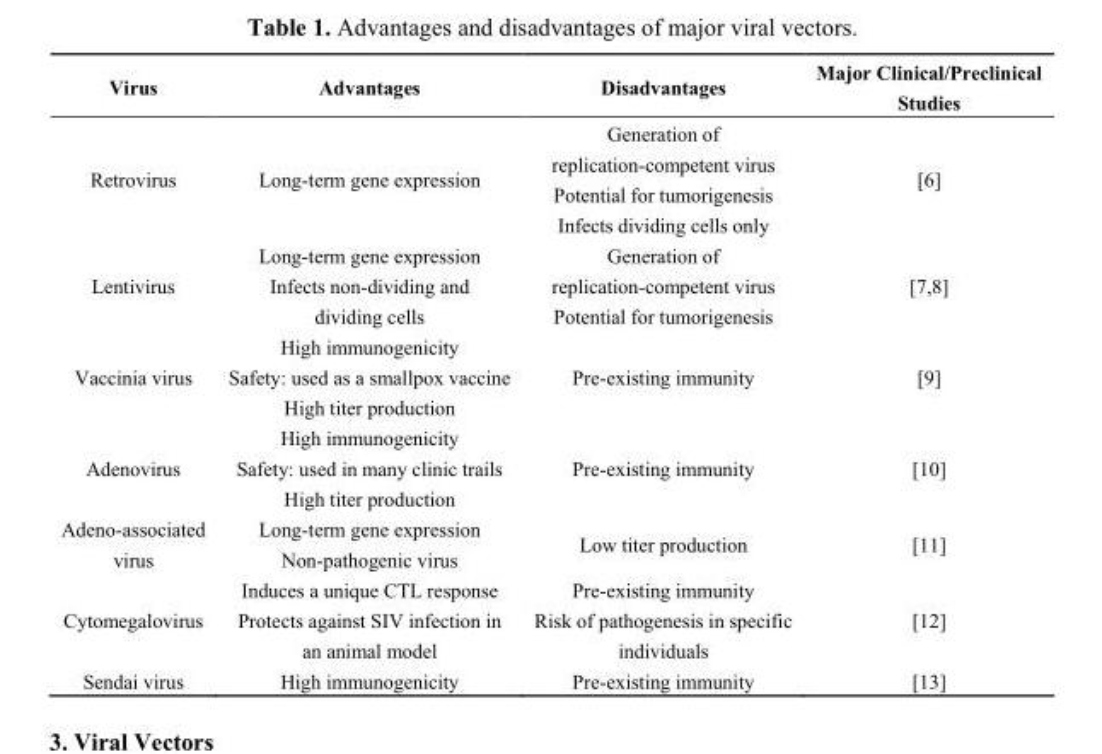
<table><thead><tr><td>Virus</td><td>Advantages</td><td>Disadvantages</td><td>Major Clinical/Preclinical Studies</td></tr></thead><tbody><tr><td>Retrovirus</td><td>Long-term gene expression</td><td>Generation of replication-competent virus Potential for tumorigenesis Infects dividing cells only</td><td>[6]</td></tr><tr><td>Lentivirus</td><td>Long-term gene expression Infects non-dividing and dividing cells</td><td>Generation of replication-competent virus Potential for tumorigenesis</td><td>[7,8]</td></tr><tr><td>Vaccinia virus</td><td>High immunogenicity Safety: used as a smallpox vaccine High titer production</td><td>Pre-existing immunity</td><td>[9]</td></tr><tr><td>Adenovirus</td><td>High immunogenicity Safety: used in many clinic trails High titer production</td><td>Pre-existing immunity</td><td>[10]</td></tr><tr><td>Adeno-associated virus</td><td>Long-term gene expression Non-pathogenic virus</td><td>Low titer production</td><td>[11]</td></tr><tr><td>Cytomegalovirus</td><td>Induces a unique CTL response Protects against SIV infection in an animal model</td><td>Pre-existing immunity Risk of pathogenesis in specific individuals</td><td>[12]</td></tr><tr><td>Sendai virus</td><td>High immunogenicity</td><td>Pre-existing immunity</td><td>[13]</td></tr></tbody></table>